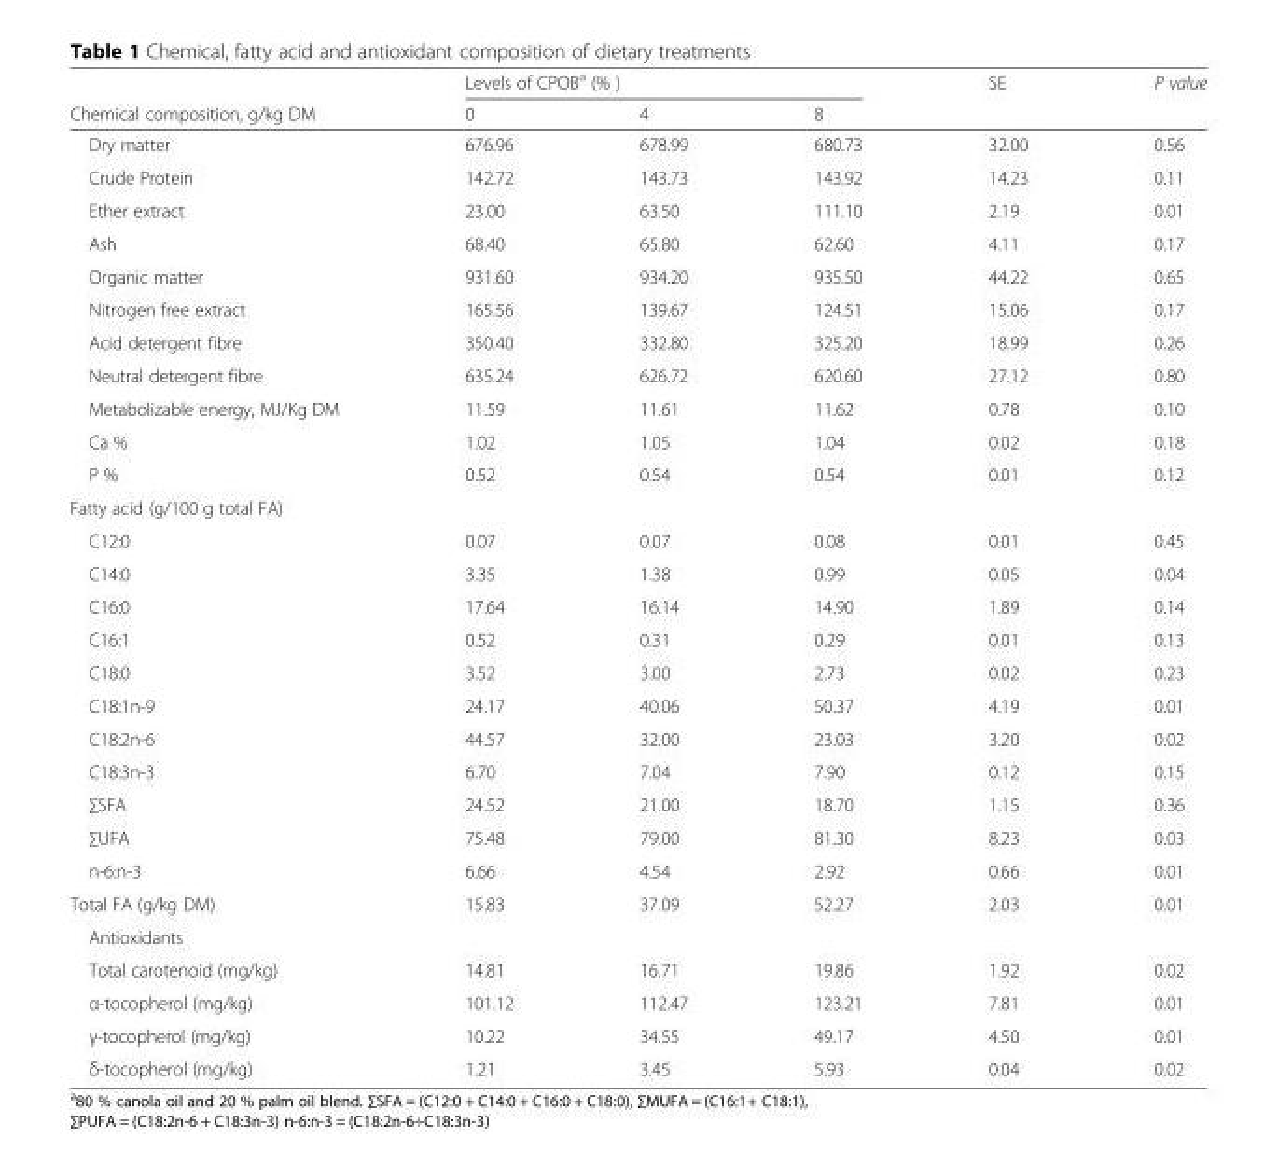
<table><thead><tr><td rowspan="2">Chemical composition, g/kg DM</td><td colspan="3">Levels of CPOB<sup>a</sup> (% )</td><td rowspan="2">SE</td><td rowspan="2">P value</td></tr><tr><td>0</td><td>4</td><td>8</td></tr></thead><tbody><tr><td>Dry matter</td><td>676.96</td><td>678.99</td><td>680.73</td><td>32.00</td><td>0.56</td></tr><tr><td>Crude Protein</td><td>142.72</td><td>143.73</td><td>143.92</td><td>14.23</td><td>0.11</td></tr><tr><td>Ether extract</td><td>23.00</td><td>63.50</td><td>111.10</td><td>2.19</td><td>0.01</td></tr><tr><td>Ash</td><td>68.40</td><td>65.80</td><td>62.60</td><td>4.11</td><td>0.17</td></tr><tr><td>Organic matter</td><td>931.60</td><td>934.20</td><td>935.50</td><td>44.22</td><td>0.65</td></tr><tr><td>Nitrogen free extract</td><td>165.56</td><td>139.67</td><td>124.51</td><td>15.06</td><td>0.17</td></tr><tr><td>Acid detergent fibre</td><td>350.40</td><td>332.80</td><td>325.20</td><td>18.99</td><td>0.26</td></tr><tr><td>Neutral detergent fibre</td><td>635.24</td><td>626.72</td><td>620.60</td><td>27.12</td><td>0.80</td></tr><tr><td>Metabolizable energy, MJ/Kg DM</td><td>11.59</td><td>11.61</td><td>11.62</td><td>0.78</td><td>0.10</td></tr><tr><td>Ca %</td><td>1.02</td><td>1.05</td><td>1.04</td><td>0.02</td><td>0.18</td></tr><tr><td>P %</td><td>0.52</td><td>0.54</td><td>0.54</td><td>0.01</td><td>0.12</td></tr><tr><td colspan="6">Fatty acid (g/100 g total FA)</td></tr><tr><td>C12:0</td><td>0.07</td><td>0.07</td><td>0.08</td><td>0.01</td><td>0.45</td></tr><tr><td>C14:0</td><td>3.35</td><td>1.38</td><td>0.99</td><td>0.05</td><td>0.04</td></tr><tr><td>C16:0</td><td>17.64</td><td>16.14</td><td>14.90</td><td>1.89</td><td>0.14</td></tr><tr><td>C16:1</td><td>0.52</td><td>0.31</td><td>0.29</td><td>0.01</td><td>0.13</td></tr><tr><td>C18:0</td><td>3.52</td><td>3.00</td><td>2.73</td><td>0.02</td><td>0.23</td></tr><tr><td>C18:1n-9</td><td>24.17</td><td>40.06</td><td>50.37</td><td>4.19</td><td>0.01</td></tr><tr><td>C18:2n-6</td><td>44.57</td><td>32.00</td><td>23.03</td><td>3.20</td><td>0.02</td></tr><tr><td>C18:3n-3</td><td>6.70</td><td>7.04</td><td>7.90</td><td>0.12</td><td>0.15</td></tr><tr><td>∑SFA</td><td>24.52</td><td>21.00</td><td>18.70</td><td>1.15</td><td>0.36</td></tr><tr><td>∑UFA</td><td>75.48</td><td>79.00</td><td>81.30</td><td>8.23</td><td>0.03</td></tr><tr><td>n-6:n-3</td><td>6.66</td><td>4.54</td><td>2.92</td><td>0.66</td><td>0.01</td></tr><tr><td>Total FA (g/kg DM)</td><td>15.83</td><td>37.09</td><td>52.27</td><td>2.03</td><td>0.01</td></tr><tr><td colspan="6">Antioxidants</td></tr><tr><td>Total carotenoid (mg/kg)</td><td>14.81</td><td>16.71</td><td>19.86</td><td>1.92</td><td>0.02</td></tr><tr><td>α-tocopherol (mg/kg)</td><td>101.12</td><td>112.47</td><td>123.21</td><td>7.81</td><td>0.01</td></tr><tr><td>γ-tocopherol (mg/kg)</td><td>10.22</td><td>34.55</td><td>49.17</td><td>4.50</td><td>0.01</td></tr><tr><td>δ-tocopherol (mg/kg)</td><td>1.21</td><td>3.45</td><td>5.93</td><td>0.04</td><td>0.02</td></tr></tbody></table>